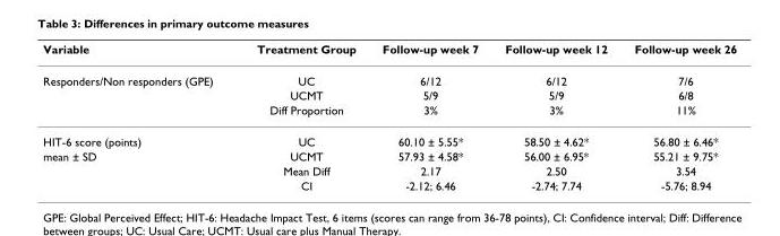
<table><thead><tr><td>Variable</td><td>Treatment Group</td><td>Follow-up week 7</td><td>Follow-up week 12</td><td>Follow-up week 26</td></tr></thead><tbody><tr><td rowspan="3">Responders/Non responders (GPE)</td><td>UC</td><td>6/12</td><td>6/12</td><td>7/6</td></tr><tr><td>UCMT</td><td>5/9</td><td>5/9</td><td>6/8</td></tr><tr><td>Diff Proportion</td><td>3%</td><td>3%</td><td>11%</td></tr><tr><td>HIT-6 score (points)</td><td>UC</td><td>60.10 ± 5.55*</td><td>58.50 ± 4.62*</td><td>56.80 ± 6.46*</td></tr><tr><td rowspan="3">mean ± SD</td><td>UCMT</td><td>57.93 ± 4.58*</td><td>56.00 ± 6.95*</td><td>55.21 ± 9.75*</td></tr><tr><td>Mean Diff</td><td>2.17</td><td>2.50</td><td>3.54</td></tr><tr><td>CI</td><td>-2.12; 6.46</td><td>-2.74; 7.74</td><td>-5.76; 8.94</td></tr></tbody></table>